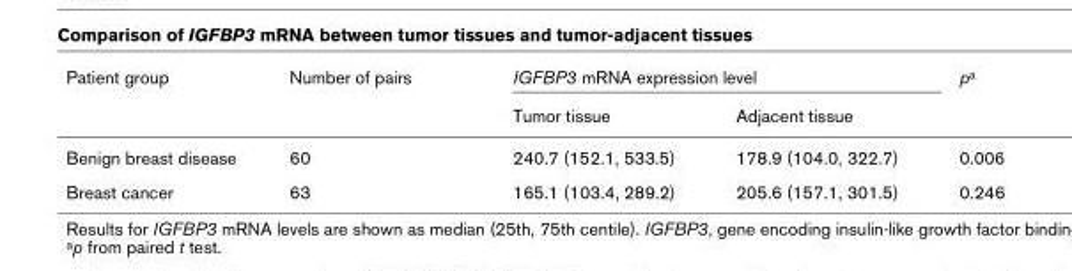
<table><thead><tr><td rowspan="2">Patient group</td><td rowspan="2">Number of pairs</td><td colspan="2">IGFBP3 mRNA expression level</td><td rowspan="2">pa</td></tr><tr><td>Tumor tissue</td><td>Adjacent tissue</td></tr></thead><tbody><tr><td>Benign breast disease</td><td>60</td><td>240.7 (152.1, 533.5)</td><td>178.9 (104.0, 322.7)</td><td>0.006</td></tr><tr><td>Breast cancer</td><td>63</td><td>165.1 (103.4, 289.2)</td><td>205.6 (157.1, 301.5)</td><td>0.246</td></tr></tbody></table>